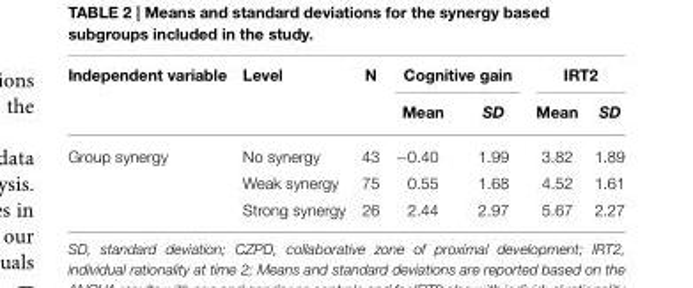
<table><thead><tr><td rowspan="2">Independent variable</td><td rowspan="2">Level</td><td rowspan="2">N</td><td colspan="2">Cognitive gain</td><td colspan="2">IRT2</td></tr><tr><td>Mean</td><td>SD</td><td>Mean</td><td>SD</td></tr></thead><tbody><tr><td rowspan="3">Group synergy</td><td>No synergy</td><td>43</td><td>−0.40</td><td>1.99</td><td>3.82</td><td>1.89</td></tr><tr><td>Weak synergy</td><td>75</td><td>0.55</td><td>1.68</td><td>4.52</td><td>1.61</td></tr><tr><td>Strong synergy</td><td>26</td><td>2.44</td><td>2.97</td><td>5.67</td><td>2.27</td></tr></tbody></table>